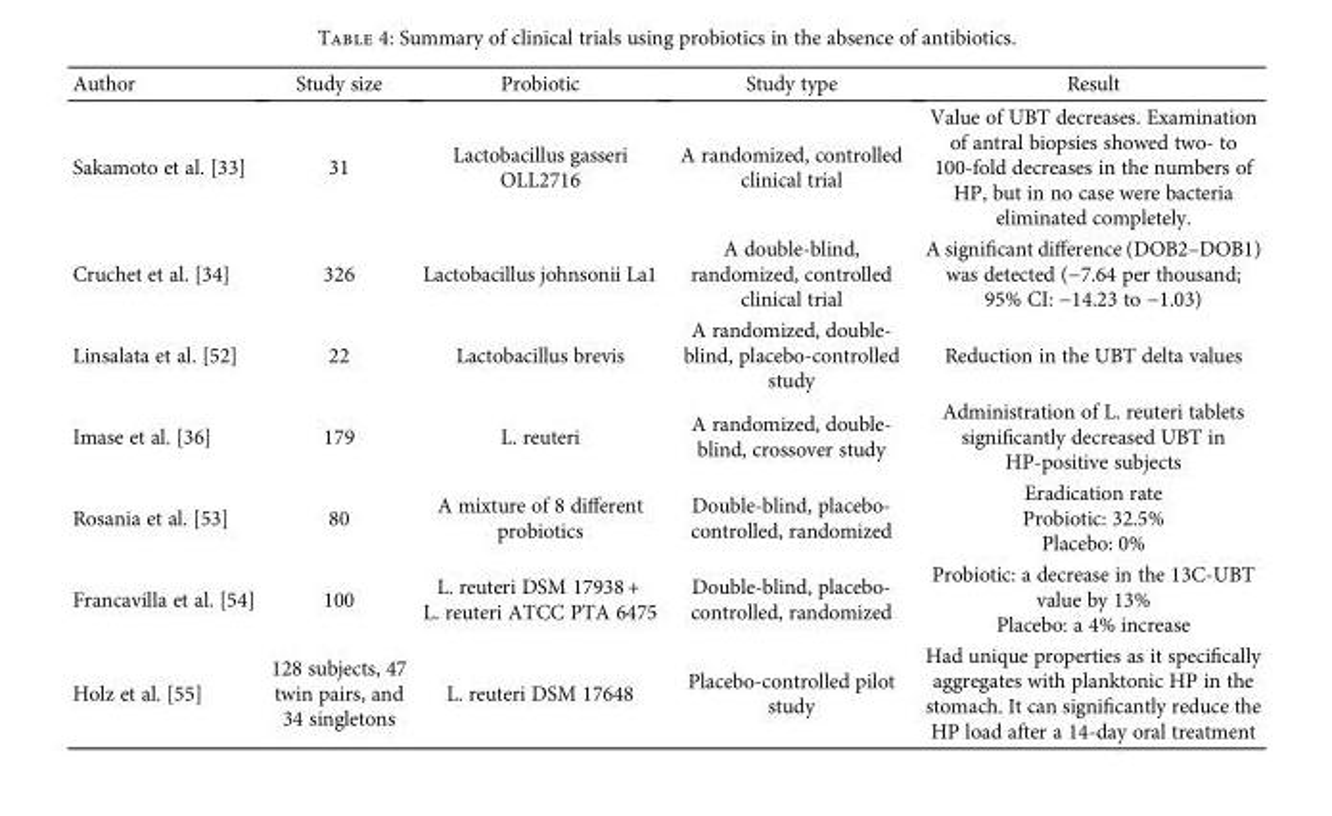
<table><thead><tr><td>Author</td><td>Study size</td><td>Probiotic</td><td>Study type</td><td>Result</td></tr></thead><tbody><tr><td>Sakamoto et al. [33]</td><td>31</td><td>Lactobacillus gasseri OLL2716</td><td>A randomized, controlled clinical trial</td><td>Value of UBT decreases. Examination of antral biopsies showed two- to 100-fold decreases in the numbers of HP, but in no case were bacteria eliminated completely.</td></tr><tr><td>Cruchet et al. [34]</td><td>326</td><td>Lactobacillus johnsonii La1</td><td>A double-blind, randomized, controlled clinical trial</td><td>A significant difference (DOB2–DOB1) was detected (−7.64 per thousand; 95% CI: −14.23 to −1.03)</td></tr><tr><td>Linsalata et al. [52]</td><td>22</td><td>Lactobacillus brevis</td><td>A randomized, double- blind, placebo-controlled study</td><td>Reduction in the UBT delta values</td></tr><tr><td>Imase et al. [36]</td><td>179</td><td>L. reuteri</td><td>A randomized, double- blind, crossover study</td><td>Administration of L. reuteri tablets significantly decreased UBT in HP-positive subjects</td></tr><tr><td>Rosania et al. [53]</td><td>80</td><td>A mixture of 8 different probiotics</td><td>Double-blind, placebo- controlled, randomized</td><td>Eradication rate Probiotic: 32.5% Placebo: 0%</td></tr><tr><td>Francavilla et al. [54]</td><td>100</td><td>L. reuteri DSM 17938 + L. reuteri ATCC PTA 6475</td><td>Double-blind, placebo- controlled, randomized</td><td>Probiotic: a decrease in the 13C-UBT value by 13% Placebo: a 4% increase</td></tr><tr><td>Holz et al. [55]</td><td>128 subjects, 47 twin pairs, and 34 singletons</td><td>L. reuteri DSM 17648</td><td>Placebo-controlled pilot study</td><td>Had unique properties as it specifically aggregates with planktonic HP in the stomach. It can significantly reduce the HP load after a 14-day oral treatment</td></tr></tbody></table>